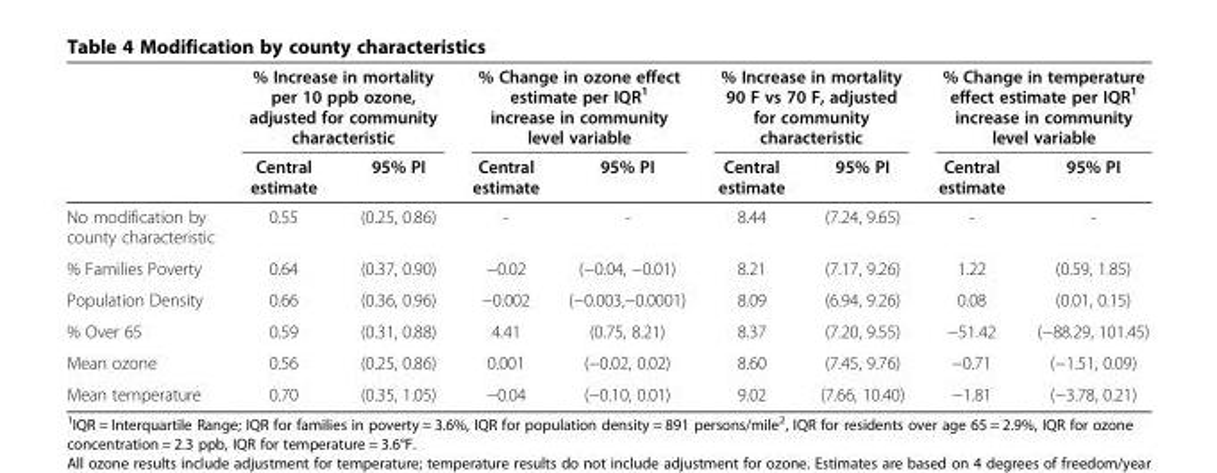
<table><thead><tr><td rowspan="2"></td><td colspan="2">% Increase in mortality per 10 ppb ozone, adjusted for community characteristic</td><td colspan="2">% Change in ozone effect estimate per IQR<sup>1</sup> increase in community level variable</td><td colspan="2">% Increase in mortality 90 F vs 70 F, adjusted for community characteristic</td><td colspan="2">% Change in temperature effect estimate per IQR<sup>1</sup> increase in community level variable</td></tr><tr><td>Central estimate</td><td>95% PI</td><td>Central estimate</td><td>95% PI</td><td>Central estimate</td><td>95% PI</td><td>Central estimate</td><td>95% PI</td></tr></thead><tbody><tr><td>No modification by county characteristic</td><td>0.55</td><td>(0.25, 0.86)</td><td>-</td><td>-</td><td>8.44</td><td>(7.24, 9.65)</td><td>-</td><td>-</td></tr><tr><td>% Families Poverty</td><td>0.64</td><td>(0.37, 0.90)</td><td>−0.02</td><td>(−0.04, −0.01)</td><td>8.21</td><td>(7.17, 9.26)</td><td>1.22</td><td>(0.59, 1.85)</td></tr><tr><td>Population Density</td><td>0.66</td><td>(0.36, 0.96)</td><td>−0.002</td><td>(−0.003,−0.0001)</td><td>8.09</td><td>(6.94, 9.26)</td><td>0.08</td><td>(0.01, 0.15)</td></tr><tr><td>% Over 65</td><td>0.59</td><td>(0.31, 0.88)</td><td>4.41</td><td>(0.75, 8.21)</td><td>8.37</td><td>(7.20, 9.55)</td><td>−51.42</td><td>(−88.29, 101.45)</td></tr><tr><td>Mean ozone</td><td>0.56</td><td>(0.25, 0.86)</td><td>0.001</td><td>(−0.02, 0.02)</td><td>8.60</td><td>(7.45, 9.76)</td><td>−0.71</td><td>(−1.51, 0.09)</td></tr><tr><td>Mean temperature</td><td>0.70</td><td>(0.35, 1.05)</td><td>−0.04</td><td>(−0.10, 0.01)</td><td>9.02</td><td>(7.66, 10.40)</td><td>−1.81</td><td>(−3.78, 0.21)</td></tr></tbody></table>